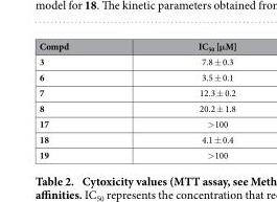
<table><thead><tr><td>Compd</td><td>IC<sub>50</sub> [μM]</td></tr></thead><tbody><tr><td>3</td><td>7.8 ± 0.3</td></tr><tr><td>6</td><td>3.5 ± 0.1</td></tr><tr><td>7</td><td>12.3 ± 0.2</td></tr><tr><td>8</td><td>20.2 ± 1.8</td></tr><tr><td>17</td><td>&gt; 100</td></tr><tr><td>18</td><td>4.1 ± 0.4</td></tr><tr><td>19</td><td>&gt; 100</td></tr></tbody></table>